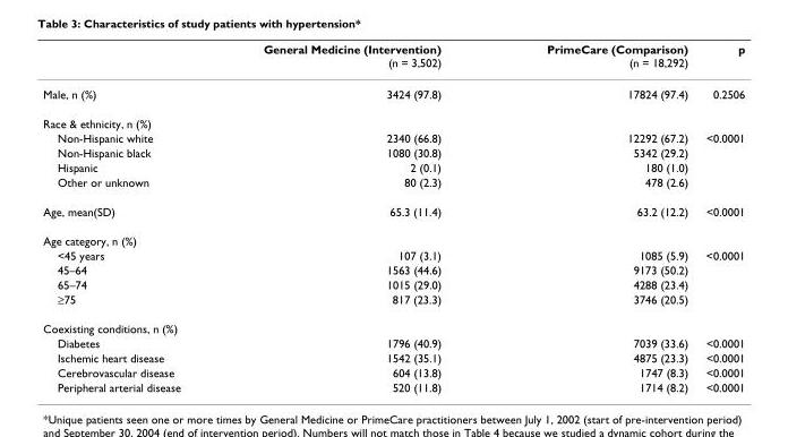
<table><thead><tr><td></td><td>General Medicine (Intervention) (n = 3,502)</td><td>PrimeCare (Comparison) (n = 18,292)</td><td>p</td></tr></thead><tbody><tr><td>Male, n (%)</td><td>3424 (97.8)</td><td>17824 (97.4)</td><td>0.2506</td></tr><tr><td colspan="4">Race &amp; ethnicity, n (%)</td></tr><tr><td>Non-Hispanic white</td><td>2340 (66.8)</td><td>12292 (67.2)</td><td>&lt;0.0001</td></tr><tr><td>Non-Hispanic black</td><td>1080 (30.8)</td><td>5342 (29.2)</td><td></td></tr><tr><td>Hispanic</td><td>2 (0.1)</td><td>180 (1.0)</td><td></td></tr><tr><td>Other or unknown</td><td>80 (2.3)</td><td>478 (2.6)</td><td></td></tr><tr><td>Age, mean(SD)</td><td>65.3 (11.4)</td><td>63.2 (12.2)</td><td>&lt;0.0001</td></tr><tr><td colspan="4">Age category, n (%)</td></tr><tr><td>&lt;45 years</td><td>107 (3.1)</td><td>1085 (5.9)</td><td>&lt;0.0001</td></tr><tr><td>45–64</td><td>1563 (44.6)</td><td>9173 (50.2)</td><td></td></tr><tr><td>65–74</td><td>1015 (29.0)</td><td>4288 (23.4)</td><td></td></tr><tr><td>≥75</td><td>817 (23.3)</td><td>3746 (20.5)</td><td></td></tr><tr><td colspan="4">Coexisting conditions, n (%)</td></tr><tr><td>Diabetes</td><td>1796 (40.9)</td><td>7039 (33.6)</td><td>&lt;0.0001</td></tr><tr><td>Ischemic heart disease</td><td>1542 (35.1)</td><td>4875 (23.3)</td><td>&lt;0.0001</td></tr><tr><td>Cerebrovascular disease</td><td>604 (13.8)</td><td>1747 (8.3)</td><td>&lt;0.0001</td></tr><tr><td>Peripheral arterial disease</td><td>520 (11.8)</td><td>1714 (8.2)</td><td>&lt;0.0001</td></tr></tbody></table>